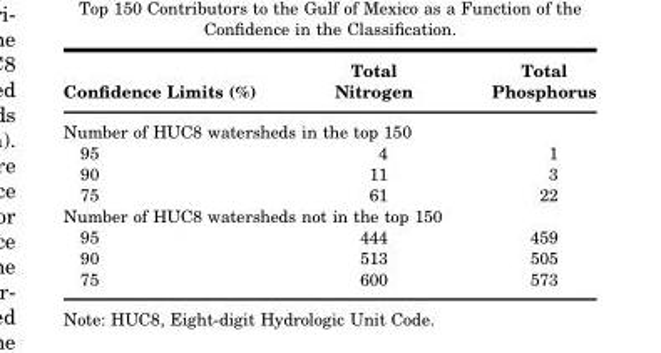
<table><thead><tr><td>Confidence Limits (%)</td><td>Total Nitrogen</td><td>Total Phosphorus</td></tr></thead><tbody><tr><td colspan="3">Number of HUC8 watersheds in the top 150</td></tr><tr><td>95</td><td>4</td><td>1</td></tr><tr><td>90</td><td>11</td><td>3</td></tr><tr><td>75</td><td>61</td><td>22</td></tr><tr><td colspan="3">Number of HUC8 watersheds not in the top 150</td></tr><tr><td>95</td><td>444</td><td>459</td></tr><tr><td>90</td><td>513</td><td>505</td></tr><tr><td>75</td><td>600</td><td>573</td></tr></tbody></table>